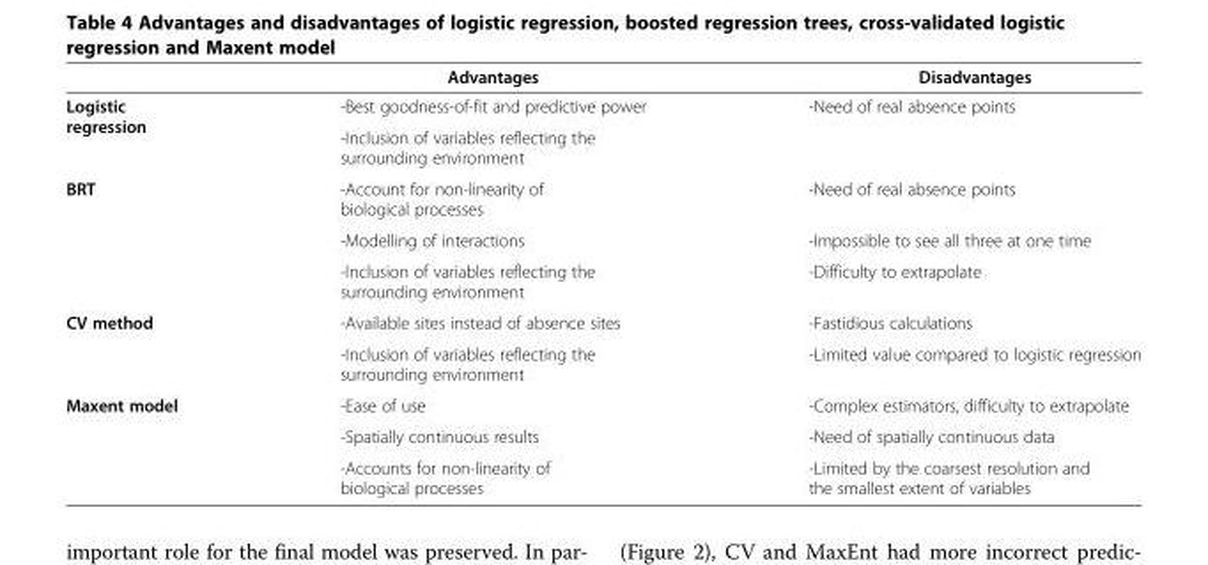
<table><thead><tr><td></td><td>Advantages</td><td>Disadvantages</td></tr></thead><tbody><tr><td rowspan="2">Logistic regression</td><td>-Best goodness-of-fit and predictive power</td><td rowspan="2">-Need of real absence points</td></tr><tr><td>-Inclusion of variables reflecting the surrounding environment</td></tr><tr><td rowspan="3">BRT</td><td>-Account for non-linearity of biological processes</td><td>-Need of real absence points</td></tr><tr><td>-Modelling of interactions</td><td>-Impossible to see all three at one time</td></tr><tr><td>-Inclusion of variables reflecting the surrounding environment</td><td>-Difficulty to extrapolate</td></tr><tr><td rowspan="2">CV method</td><td>-Available sites instead of absence sites</td><td>-Fastidious calculations</td></tr><tr><td>-Inclusion of variables reflecting the surrounding environment</td><td>-Limited value compared to logistic regression</td></tr><tr><td rowspan="3">Maxent model</td><td>-Ease of use</td><td>-Complex estimators, difficulty to extrapolate</td></tr><tr><td>-Spatially continuous results</td><td>-Need of spatially continuous data</td></tr><tr><td>-Accounts for non-linearity of biological processes</td><td>-Limited by the coarsest resolution and the smallest extent of variables</td></tr></tbody></table>